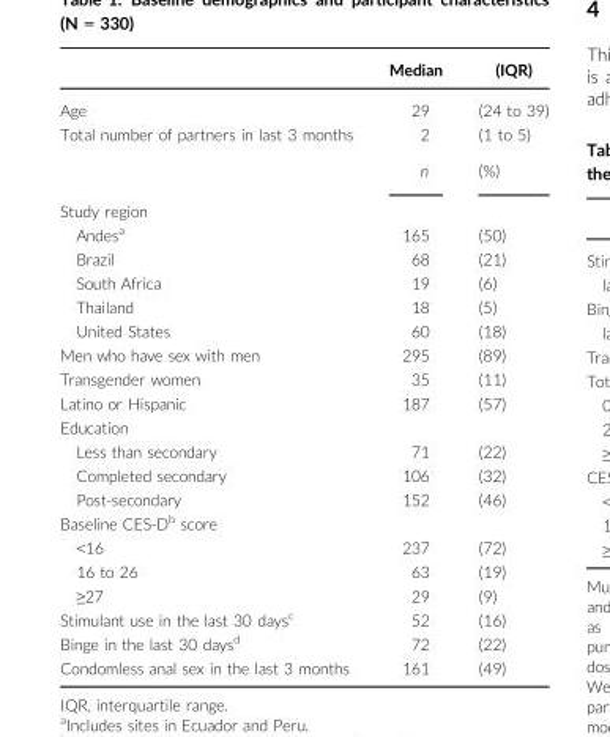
<table><thead><tr><td></td><td>Median</td><td>(IQR)</td></tr></thead><tbody><tr><td>Age</td><td>29</td><td>(24 to 39)</td></tr><tr><td rowspan="2">Total number of partners in last 3 months</td><td>2</td><td>(1 to 5)</td></tr><tr><td>n</td><td>(%)</td></tr><tr><td colspan="3">Study region</td></tr><tr><td>Andes<sup>a</sup></td><td>165</td><td>(50)</td></tr><tr><td>Brazil</td><td>68</td><td>(21)</td></tr><tr><td>South Africa</td><td>19</td><td>(6)</td></tr><tr><td>Thailand</td><td>18</td><td>(5)</td></tr><tr><td>United States</td><td>60</td><td>(18)</td></tr><tr><td>Men who have sex with men</td><td>295</td><td>(89)</td></tr><tr><td>Transgender women</td><td>35</td><td>(11)</td></tr><tr><td>Latino or Hispanic</td><td>187</td><td>(57)</td></tr><tr><td colspan="3">Education</td></tr><tr><td>Less than secondary</td><td>71</td><td>(22)</td></tr><tr><td>Completed secondary</td><td>106</td><td>(32)</td></tr><tr><td>Post-secondary</td><td>152</td><td>(46)</td></tr><tr><td colspan="3">Baseline CES-D<sup>b</sup> score</td></tr><tr><td>&lt;16</td><td>237</td><td>(72)</td></tr><tr><td>16 to 26</td><td>63</td><td>(19)</td></tr><tr><td>≥27</td><td>29</td><td>(9)</td></tr><tr><td>Stimulant use in the last 30 days<sup>c</sup></td><td>52</td><td>(16)</td></tr><tr><td>Binge in the last 30 days<sup>d</sup></td><td>72</td><td>(22)</td></tr><tr><td>Condomless anal sex in the last 3 months</td><td>161</td><td>(49)</td></tr></tbody></table>